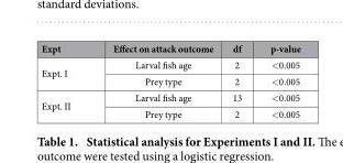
<table><thead><tr><td>Expt</td><td>Effect on attack outcome</td><td>df</td><td>p-value</td></tr></thead><tbody><tr><td rowspan="2">Expt. I</td><td>Larval fish age</td><td>2</td><td>&lt; 0.005</td></tr><tr><td>Prey type</td><td>2</td><td>&lt; 0.005</td></tr><tr><td rowspan="2">Expt. II</td><td>Larval fish age</td><td>13</td><td>&lt; 0.005</td></tr><tr><td>Prey type</td><td>2</td><td>&lt; 0.005</td></tr></tbody></table>